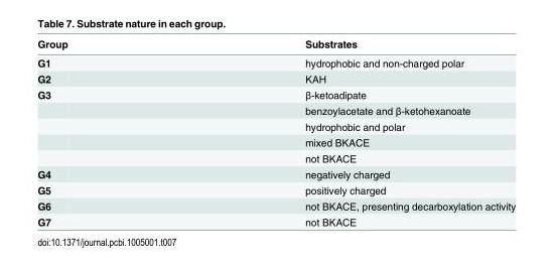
<table><thead><tr><td>Group</td><td>Substrates</td></tr></thead><tbody><tr><td>G1</td><td>hydrophobic and non-charged polar</td></tr><tr><td>G2</td><td>KAH</td></tr><tr><td rowspan="5">G3</td><td>β-ketoadipate</td></tr><tr><td>benzoylacetate and β-ketohexanoate</td></tr><tr><td>hydrophobic and polar</td></tr><tr><td>mixed BKACE</td></tr><tr><td>not BKACE</td></tr><tr><td>G4</td><td>negatively charged</td></tr><tr><td>G5</td><td>positively charged</td></tr><tr><td>G6</td><td>not BKACE, presenting decarboxylation activity</td></tr><tr><td>G7</td><td>not BKACE</td></tr></tbody></table>